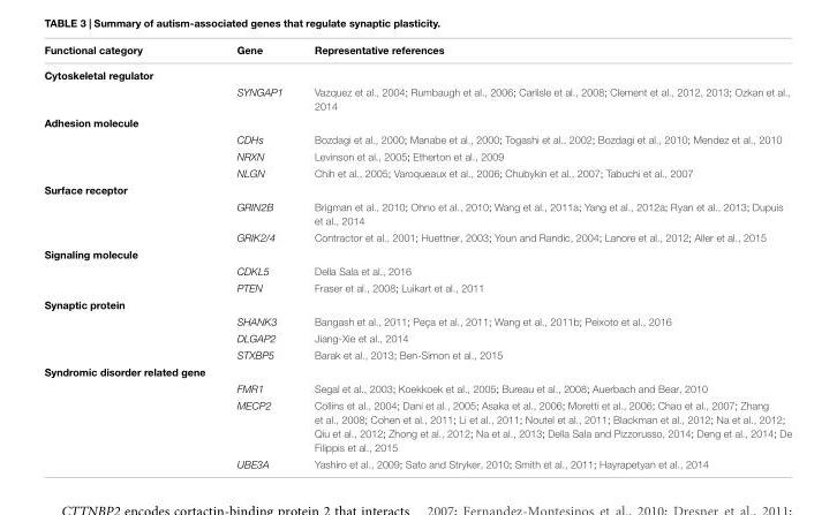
<table><thead><tr><td>Functional category</td><td>Gene</td><td>Representative references</td></tr></thead><tbody><tr><td colspan="3">Cytoskeletal regulator</td></tr><tr><td></td><td>SYNGAP1</td><td>Vazquez et al., 2004; Rumbaugh et al., 2006; Carlisle et al., 2008; Clement et al., 2012, 2013; Ozkan et al., 2014</td></tr><tr><td colspan="3">Adhesion molecule</td></tr><tr><td></td><td>CDHs</td><td>Bozdagi et al., 2000; Manabe et al., 2000; Togashi et al., 2002; Bozdagi et al., 2010; Mendez et al., 2010</td></tr><tr><td></td><td>NRXN</td><td>Levinson et al., 2005; Etherton et al., 2009</td></tr><tr><td></td><td>NLGN</td><td>Chih et al., 2005; Varoqueaux et al., 2006; Chubykin et al., 2007; Tabuchi et al., 2007</td></tr><tr><td colspan="3">Surface receptor</td></tr><tr><td></td><td>GRIN2B</td><td>Brigman et al., 2010; Ohno et al., 2010; Wang et al., 2011a; Yang et al., 2012a; Ryan et al., 2013; Dupuis et al., 2014</td></tr><tr><td></td><td>GRIK2/4</td><td>Contractor et al., 2001; Huettner, 2003; Youn and Randic, 2004; Lanore et al., 2012; Aller et al., 2015</td></tr><tr><td colspan="3">Signaling molecule</td></tr><tr><td></td><td>CDKL5</td><td>Della Sala et al., 2016</td></tr><tr><td></td><td>PTEN</td><td>Fraser et al., 2008; Luikart et al., 2011</td></tr><tr><td colspan="3">Synaptic protein</td></tr><tr><td></td><td>SHANK3</td><td>Bangash et al., 2011; Peça et al., 2011; Wang et al., 2011b; Peixoto et al., 2016</td></tr><tr><td></td><td>DLGAP2</td><td>Jiang-Xie et al., 2014</td></tr><tr><td></td><td>STXBP5</td><td>Barak et al., 2013; Ben-Simon et al., 2015</td></tr><tr><td colspan="3">Syndromic disorder related gene</td></tr><tr><td></td><td>FMR1</td><td>Segal et al., 2003; Koekkoek et al., 2005; Bureau et al., 2008; Auerbach and Bear, 2010</td></tr><tr><td></td><td>MECP2</td><td>Collins et al., 2004; Dani et al., 2005; Asaka et al., 2006; Moretti et al., 2006; Chao et al., 2007; Zhang et al., 2008; Cohen et al., 2011; Li et al., 2011; Noutel et al., 2011; Blackman et al., 2012; Na et al., 2012; Qiu et al., 2012; Zhong et al., 2012; Na et al., 2013; Della Sala and Pizzorusso, 2014; Deng et al., 2014; De Filippis et al., 2015</td></tr><tr><td></td><td>UBE3A</td><td>Yashiro et al., 2009; Sato and Stryker, 2010; Smith et al., 2011; Hayrapetyan et al., 2014</td></tr></tbody></table>